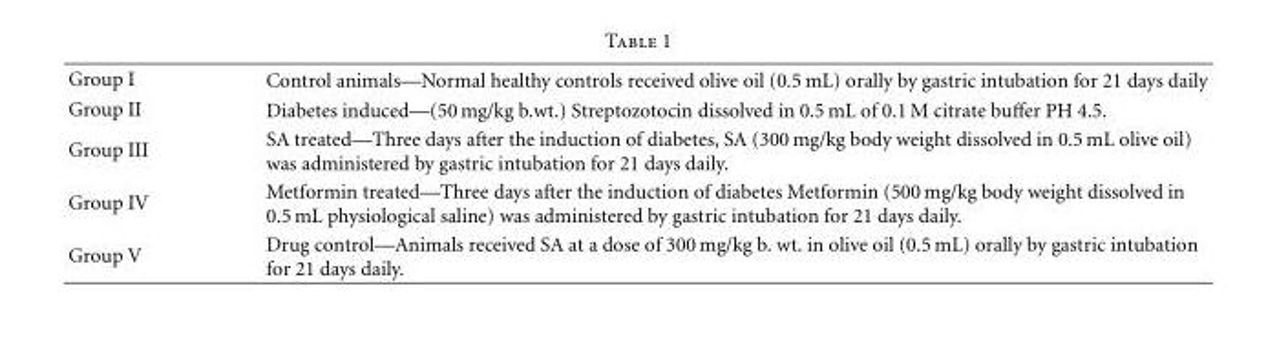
<table><tbody><tr><td>Group I</td><td>Control animals—Normal healthy controls received olive oil (0.5 mL) orally by gastric intubation for 21 days daily</td></tr><tr><td>Group II</td><td>Diabetes induced—(50 mg/kg b.wt.) Streptozotocin dissolved in 0.5 mL of 0.1 M citrate buffer PH 4.5.</td></tr><tr><td>Group III</td><td>SA treated—Three days after the induction of diabetes, SA (300 mg/kg body weight dissolved in 0.5 mL olive oil) was administered by gastric intubation for 21 days daily.</td></tr><tr><td>Group IV</td><td>Metformin treated—Three days after the induction of diabetes Metformin (500 mg/kg body weight dissolved in 0.5 mL physiological saline) was administered by gastric intubation for 21 days daily.</td></tr><tr><td>Group V</td><td>Drug control—Animals received SA at a dose of 300 mg/kg b. wt. in olive oil (0.5 mL) orally by gastric intubation for 21 days daily.</td></tr></tbody></table>